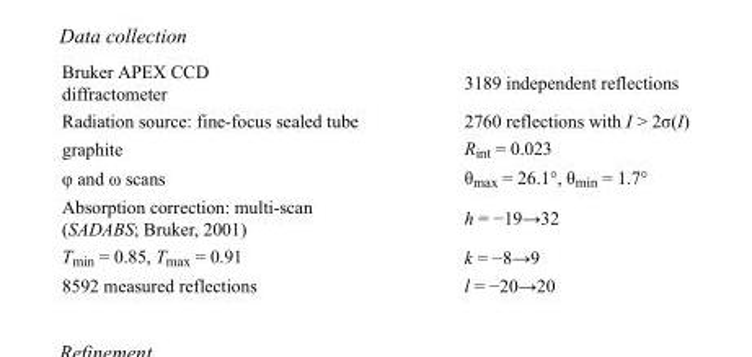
<table><tbody><tr><td>Bruker APEX CCD diffractometer</td><td>3189 independent reflections</td></tr><tr><td>Radiation source: fine-focus sealed tube</td><td>2760 reflections with I &gt; 2σ(I)</td></tr><tr><td>graphite</td><td>R<sub>int</sub> = 0.023</td></tr><tr><td>φ and ω scans</td><td>θ<sub>max</sub> = 26.1°, θ<sub>min</sub> = 1.7°</td></tr><tr><td>Absorption correction: multi-scan (SADABS; Bruker, 2001)</td><td>h = −19→32</td></tr><tr><td>T<sub>min</sub> = 0.85, T<sub>max</sub> = 0.91</td><td>k = −8→9</td></tr><tr><td>8592 measured reflections</td><td>l = −20→20</td></tr></tbody></table>